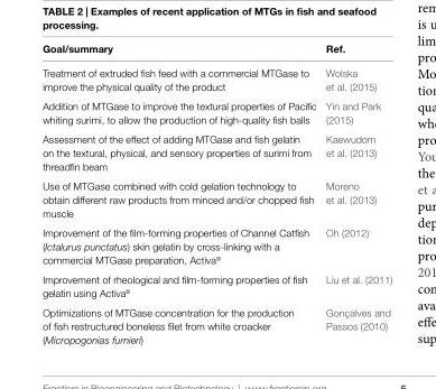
<table><thead><tr><td>goal/summary</td><td>Ref.</td></tr></thead><tbody><tr><td>Treatment of extruded fish feed with a commercial MTGase to improve the physical quality of the product</td><td>Wolska et al. (2015)</td></tr><tr><td>Addition of MTGase to improve the textural properties of Pacific whiting surimi, to allow the production of high-quality fish balls</td><td>Yin and Park (2015)</td></tr><tr><td>Assessment of the effect of adding MTGase and fish gelatin on the textural, physical, and sensory properties of surimi from threadfin beam</td><td>Kaewudom et al. (2013)</td></tr><tr><td>Use of MTGase combined with cold gelation technology to obtain different raw products from minced and/or chopped fish muscle</td><td>Moreno et al. (2013)</td></tr><tr><td>Improvement of the film-forming properties of Channel Catfish (Ictalurus punctatus) skin gelatin by cross-linking with a commercial MTGase preparation, Activa<sup>®</sup></td><td>Oh (2012)</td></tr><tr><td>Improvement of rheological and film-forming properties of fish gelatin using Activa<sup>®</sup></td><td>Liu et al. (2011)</td></tr><tr><td>Optimizations of MTGase concentration for the production of fish restructured boneless filet from white croacker (Micropogonias furnieri)</td><td>Gonçalves and Passos (2010)</td></tr></tbody></table>